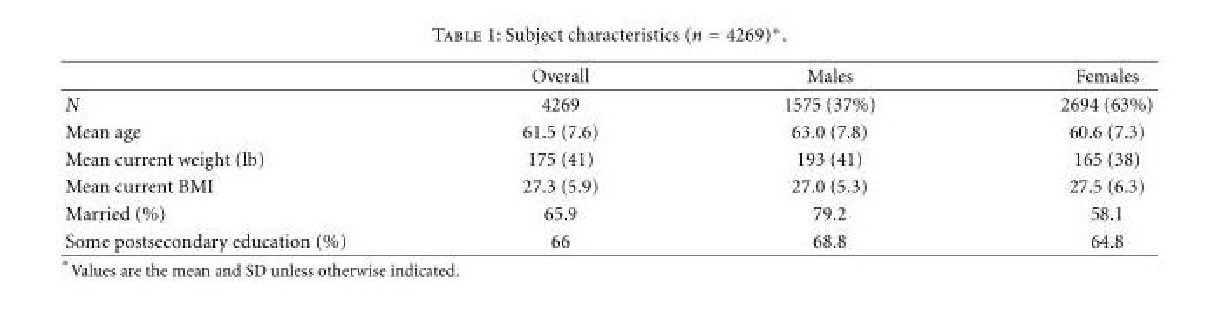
<table><thead><tr><td></td><td>Overall</td><td>Males</td><td>Females</td></tr></thead><tbody><tr><td>N</td><td>4269</td><td>1575 (37%)</td><td>2694 (63%)</td></tr><tr><td>Mean age</td><td>61.5 (7.6)</td><td>63.0 (7.8)</td><td>60.6 (7.3)</td></tr><tr><td>Mean current weight (lb)</td><td>175 (41)</td><td>193 (41)</td><td>165 (38)</td></tr><tr><td>Mean current BMI</td><td>27.3 (5.9)</td><td>27.0 (5.3)</td><td>27.5 (6.3)</td></tr><tr><td>Married (%)</td><td>65.9</td><td>79.2</td><td>58.1</td></tr><tr><td>Some postsecondary education (%)</td><td>66</td><td>68.8</td><td>64.8</td></tr></tbody></table>